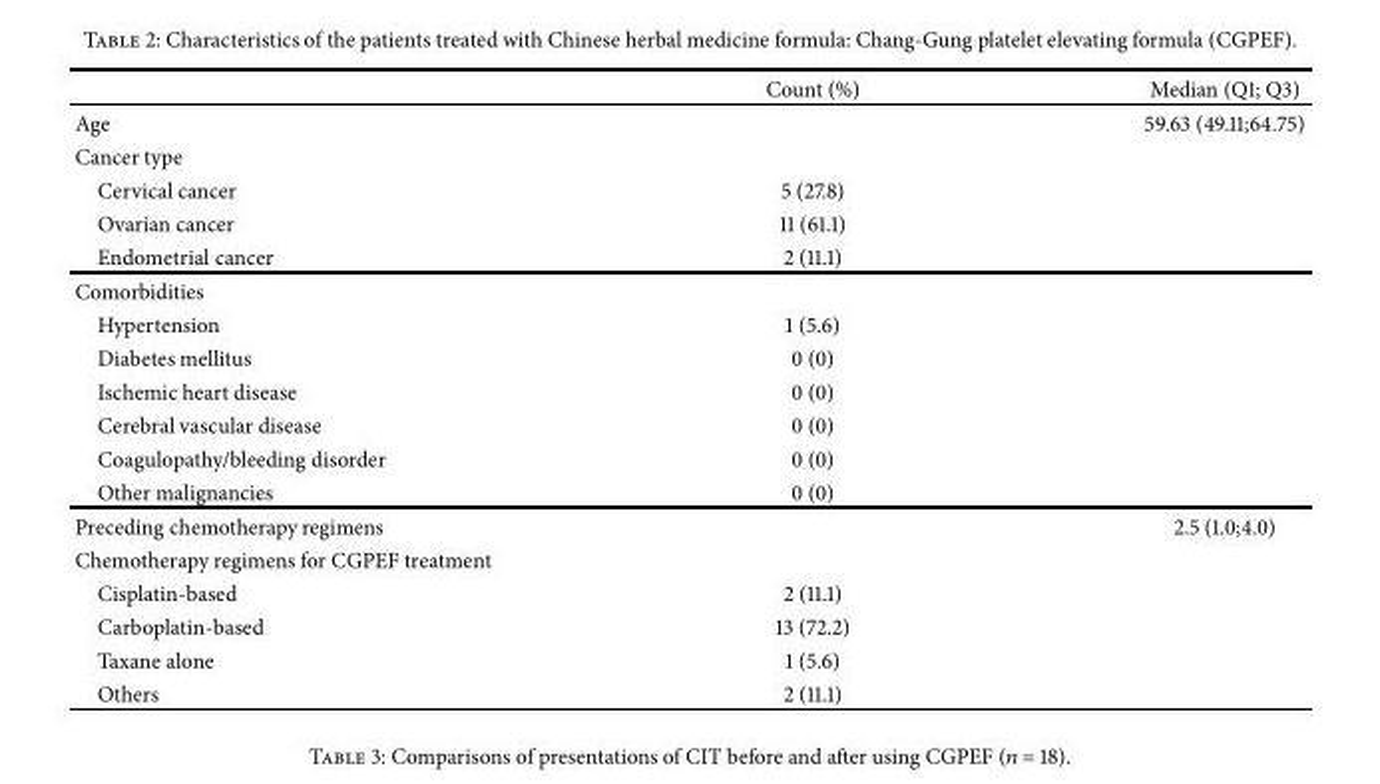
<table><thead><tr><td></td><td>Count (%)</td><td>Median (Q1; Q3)</td></tr></thead><tbody><tr><td>Age</td><td></td><td>59.63 (49.11;64.75)</td></tr><tr><td colspan="3">Cancer type</td></tr><tr><td>Cervical cancer</td><td>5 (27.8)</td><td></td></tr><tr><td>Ovarian cancer</td><td>11 (61.1)</td><td></td></tr><tr><td>Endometrial cancer</td><td>2 (11.1)</td><td></td></tr><tr><td colspan="3">Comorbidities</td></tr><tr><td>Hypertension</td><td>1 (5.6)</td><td></td></tr><tr><td>Diabetes mellitus</td><td>0 (0)</td><td></td></tr><tr><td>Ischemic heart disease</td><td>0 (0)</td><td></td></tr><tr><td>Cerebral vascular disease</td><td>0 (0)</td><td></td></tr><tr><td>Coagulopathy/bleeding disorder</td><td>0 (0)</td><td></td></tr><tr><td>Other malignancies</td><td>0 (0)</td><td></td></tr><tr><td>Preceding chemotherapy regimens</td><td></td><td>2.5 (1.0;4.0)</td></tr><tr><td colspan="3">Chemotherapy regimens for CGPEF treatment</td></tr><tr><td>Cisplatin-based</td><td>2 (11.1)</td><td></td></tr><tr><td>Carboplatin-based</td><td>13 (72.2)</td><td></td></tr><tr><td>Taxane alone</td><td>1 (5.6)</td><td></td></tr><tr><td>Others</td><td>2 (11.1)</td><td></td></tr></tbody></table>